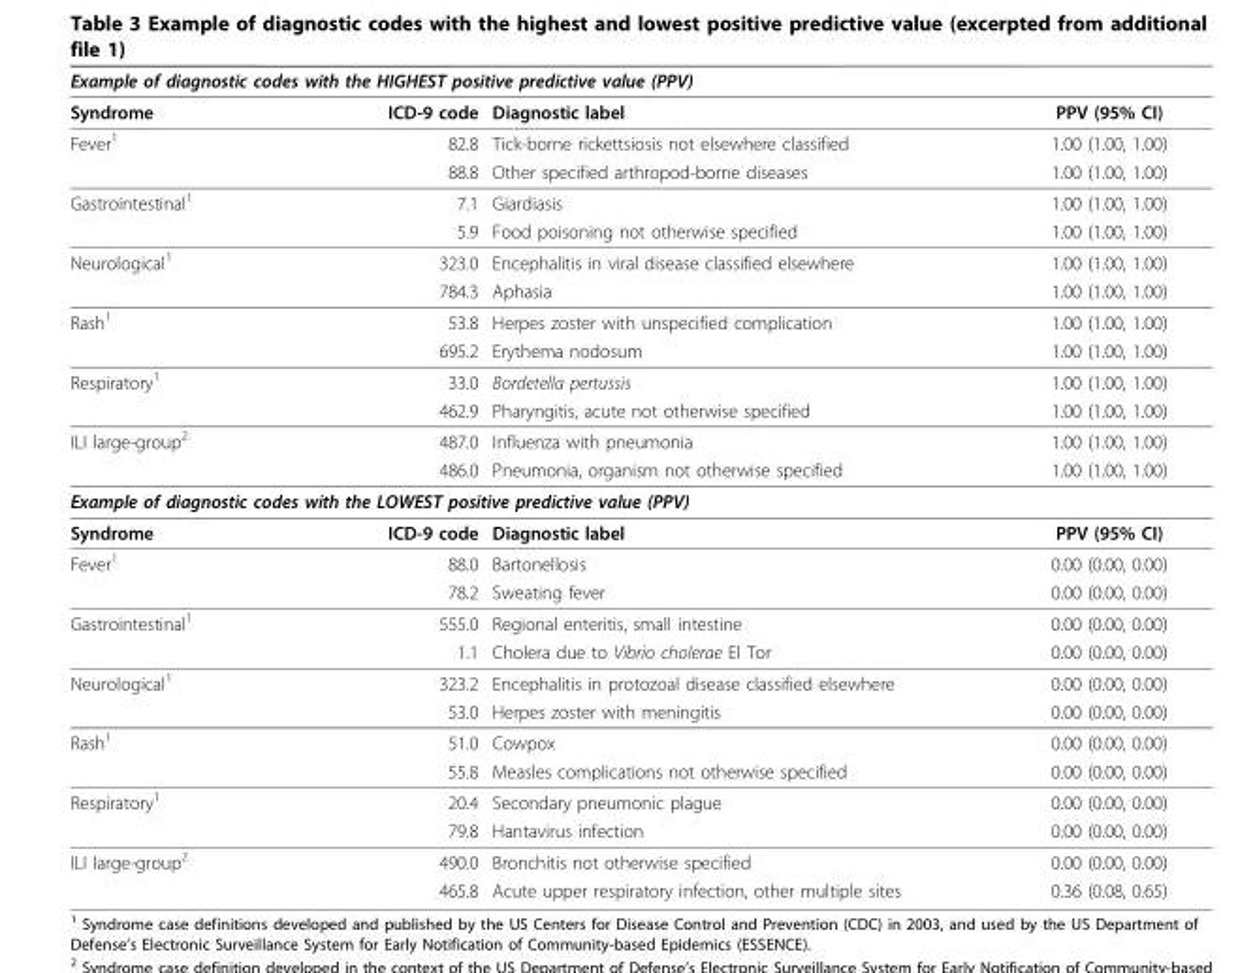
<table><thead><tr><td colspan="4">Example of diagnostic codes with the HIGHEST positive predictive value (PPV)</td></tr><tr><td>Syndrome</td><td>ICD-9 code</td><td>Diagnostic label</td><td>PPV (95% CI)</td></tr></thead><tbody><tr><td rowspan="2">Fever<sup>1</sup></td><td>82.8</td><td>Tick-borne rickettsiosis not elsewhere classified</td><td>1.00 (1.00, 1.00)</td></tr><tr><td>88.8</td><td>Other specified arthropod-borne diseases</td><td>1.00 (1.00, 1.00)</td></tr><tr><td rowspan="2">Gastrointestinal<sup>1</sup></td><td>7.1</td><td>Giardiasis</td><td>1.00 (1.00, 1.00)</td></tr><tr><td>5.9</td><td>Food poisoning not otherwise specified</td><td>1.00 (1.00, 1.00)</td></tr><tr><td rowspan="2">Neurological<sup>1</sup></td><td>323.0</td><td>Encephalitis in viral disease classified elsewhere</td><td>1.00 (1.00, 1.00)</td></tr><tr><td>784.3</td><td>Aphasia</td><td>1.00 (1.00, 1.00)</td></tr><tr><td rowspan="2">Rash<sup>1</sup></td><td>53.8</td><td>Herpes zoster with unspecified complication</td><td>1.00 (1.00, 1.00)</td></tr><tr><td>695.2</td><td>Erythema nodosum</td><td>1.00 (1.00, 1.00)</td></tr><tr><td rowspan="2">Respiratory<sup>1</sup></td><td>33.0</td><td>Bordetella pertussis</td><td>1.00 (1.00, 1.00)</td></tr><tr><td>462.9</td><td>Pharyngitis, acute not otherwise specified</td><td>1.00 (1.00, 1.00)</td></tr><tr><td rowspan="2">ILI large-group<sup>2</sup></td><td>487.0</td><td>Influenza with pneumonia</td><td>1.00 (1.00, 1.00)</td></tr><tr><td>486.0</td><td>Pneumonia, organism not otherwise specified</td><td>1.00 (1.00, 1.00)</td></tr><tr><td colspan="4">Example of diagnostic codes with the LOWEST positive predictive value (PPV)</td></tr><tr><td>Syndrome</td><td>ICD-9 code</td><td>Diagnostic label</td><td>PPV (95% CI)</td></tr><tr><td rowspan="2">Fever<sup>1</sup></td><td>88.0</td><td>Bartonellosis</td><td>0.00 (0.00, 0.00)</td></tr><tr><td>78.2</td><td>Sweating fever</td><td>0.00 (0.00, 0.00)</td></tr><tr><td rowspan="2">Gastrointestinal<sup>1</sup></td><td>555.0</td><td>Regional enteritis, small intestine</td><td>0.00 (0.00, 0.00)</td></tr><tr><td>1.1</td><td>Cholera due to Vibrio cholerae El Tor</td><td>0.00 (0.00, 0.00)</td></tr><tr><td rowspan="2">Neurological<sup>1</sup></td><td>323.2</td><td>Encephalitis in protozoal disease classified elsewhere</td><td>0.00 (0.00, 0.00)</td></tr><tr><td>53.0</td><td>Herpes zoster with meningitis</td><td>0.00 (0.00, 0.00)</td></tr><tr><td rowspan="2">Rash<sup>1</sup></td><td>51.0</td><td>Cowpox</td><td>0.00 (0.00, 0.00)</td></tr><tr><td>55.8</td><td>Measles complications not otherwise specified</td><td>0.00 (0.00, 0.00)</td></tr><tr><td rowspan="2">Respiratory<sup>1</sup></td><td>20.4</td><td>Secondary pneumonic plague</td><td>0.00 (0.00, 0.00)</td></tr><tr><td>79.8</td><td>Hantavirus infection</td><td>0.00 (0.00, 0.00)</td></tr><tr><td rowspan="2">ILI large-group<sup>2</sup></td><td>490.0</td><td>Bronchitis not otherwise specified</td><td>0.00 (0.00, 0.00)</td></tr><tr><td>465.8</td><td>Acute upper respiratory infection, other multiple sites</td><td>0.36 (0.08, 0.65)</td></tr></tbody></table>